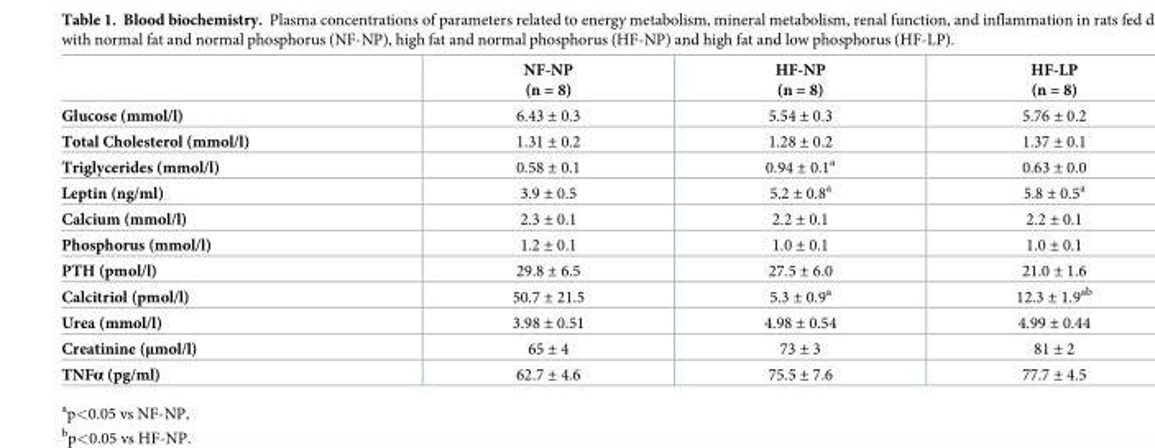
<table><thead><tr><td></td><td>NF-NP (n = 8)</td><td>HF-NP (n = 8)</td><td>HF-LP (n = 8)</td></tr></thead><tbody><tr><td>Glucose (mmol/l)</td><td>6.43 ± 0.3</td><td>5.54 ± 0.3</td><td>5.76 ± 0.2</td></tr><tr><td>Total Cholesterol (mmol/l)</td><td>1.31 ± 0.2</td><td>1.28 ± 0.2</td><td>1.37 ± 0.1</td></tr><tr><td>Triglycerides (mmol/l)</td><td>0.58 ± 0.1</td><td>0.94 ± 0.1<sup>a</sup></td><td>0.63 ± 0.0</td></tr><tr><td>Leptin (ng/ml)</td><td>3.9 ± 0.5</td><td>5.2 ± 0.8<sup>a</sup></td><td>5.8 ± 0.5<sup>a</sup></td></tr><tr><td>Calcium (mmol/l)</td><td>2.3 ± 0.1</td><td>2.2 ± 0.1</td><td>2.2 ± 0.1</td></tr><tr><td>Phosphorus (mmol/l)</td><td>1.2 ± 0.1</td><td>1.0 ± 0.1</td><td>1.0 ± 0.1</td></tr><tr><td>PTH (pmol/l)</td><td>29.8 ± 6.5</td><td>27.5 ± 6.0</td><td>21.0 ± 1.6</td></tr><tr><td>Calcitriol (pmol/l)</td><td>50.7 ± 21.5</td><td>5.3 ± 0.9<sup>a</sup></td><td>12.3 ± 1.9<sup>ab</sup></td></tr><tr><td>Urea (mmol/l)</td><td>3.98 ± 0.51</td><td>4.98 ± 0.54</td><td>4.99 ± 0.44</td></tr><tr><td>Creatinine (μmol/l)</td><td>65 ± 4</td><td>73 ± 3</td><td>81 ± 2</td></tr><tr><td>TNFα (pg/ml)</td><td>62.7 ± 4.6</td><td>75.5 ± 7.6</td><td>77.7 ± 4.5</td></tr></tbody></table>